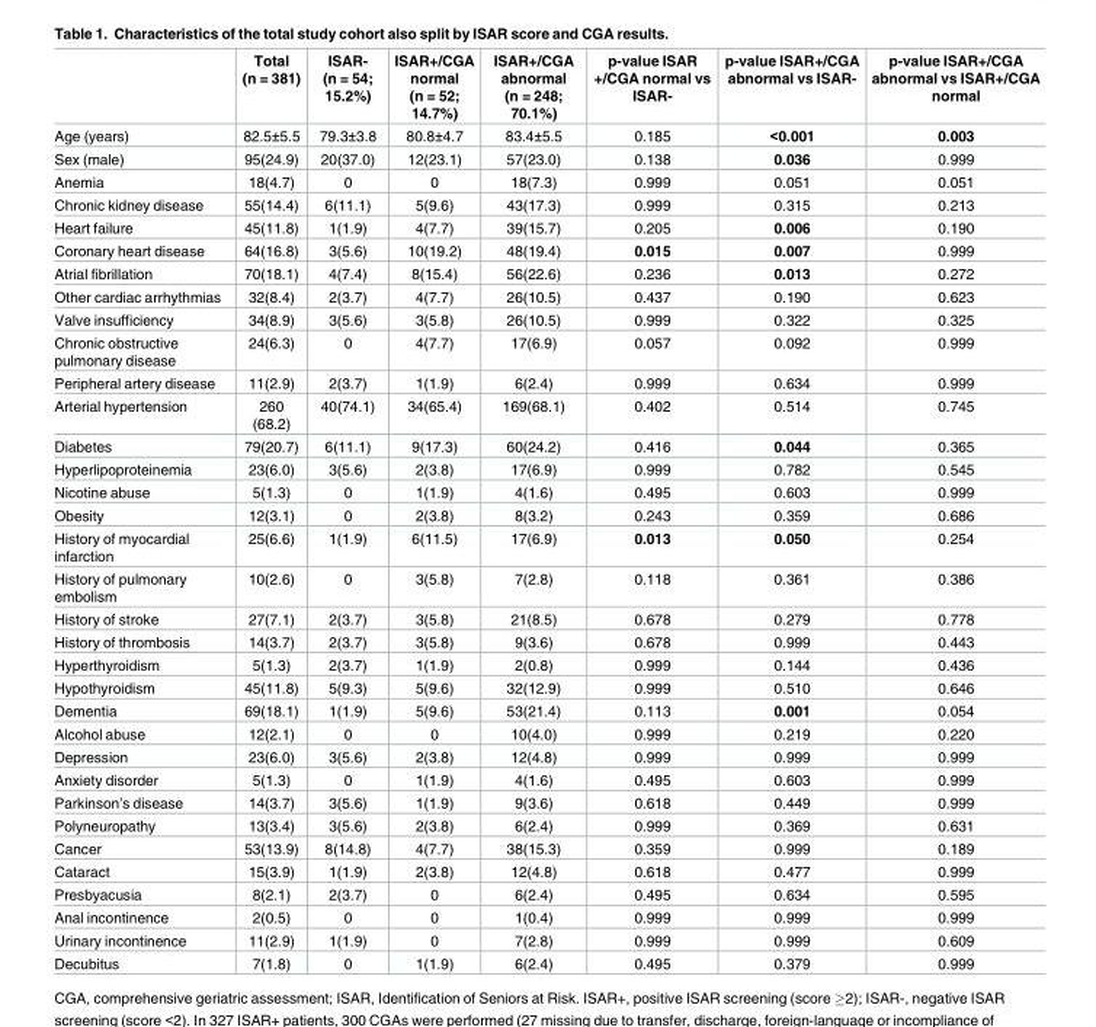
<table><thead><tr><td></td><td>Total (n = 381)</td><td>ISAR- (n = 54; 15.2%)</td><td>ISAR+/CGA normal (n = 52; 14.7%)</td><td>ISAR+/CGA abnormal (n = 248; 70.1%)</td><td>p-value ISAR +/CGA normal vs ISAR-</td><td>p-value ISAR+/CGA abnormal vs ISAR-</td><td>p-value ISAR+/CGA abnormal vs ISAR+/CGA normal</td></tr></thead><tbody><tr><td>Age (years)</td><td>82.5±5.5</td><td>79.3±3.8</td><td>80.8±4.7</td><td>83.4±5.5</td><td>0.185</td><td>&lt;0.001</td><td>0.003</td></tr><tr><td>Sex (male)</td><td>95(24.9)</td><td>20(37.0)</td><td>12(23.1)</td><td>57(23.0)</td><td>0.138</td><td>0.036</td><td>0.999</td></tr><tr><td>Anemia</td><td>18(4.7)</td><td>0</td><td>0</td><td>18(7.3)</td><td>0.999</td><td>0.051</td><td>0.051</td></tr><tr><td>Chronic kidney disease</td><td>55(14.4)</td><td>6(11.1)</td><td>5(9.6)</td><td>43(17.3)</td><td>0.999</td><td>0.315</td><td>0.213</td></tr><tr><td>Heart failure</td><td>45(11.8)</td><td>1(1.9)</td><td>4(7.7)</td><td>39(15.7)</td><td>0.205</td><td>0.006</td><td>0.190</td></tr><tr><td>Coronary heart disease</td><td>64(16.8)</td><td>3(5.6)</td><td>10(19.2)</td><td>48(19.4)</td><td>0.015</td><td>0.007</td><td>0.999</td></tr><tr><td>Atrial fibrillation</td><td>70(18.1)</td><td>4(7.4)</td><td>8(15.4)</td><td>56(22.6)</td><td>0.236</td><td>0.013</td><td>0.272</td></tr><tr><td>Other cardiac arrhythmias</td><td>32(8.4)</td><td>2(3.7)</td><td>4(7.7)</td><td>26(10.5)</td><td>0.437</td><td>0.190</td><td>0.623</td></tr><tr><td>Valve insufficiency</td><td>34(8.9)</td><td>3(5.6)</td><td>3(5.8)</td><td>26(10.5)</td><td>0.999</td><td>0.322</td><td>0.325</td></tr><tr><td>Chronic obstructive pulmonary disease</td><td>24(6.3)</td><td>0</td><td>4(7.7)</td><td>17(6.9)</td><td>0.057</td><td>0.092</td><td>0.999</td></tr><tr><td>Peripheral artery disease</td><td>11(2.9)</td><td>2(3.7)</td><td>1(1.9)</td><td>6(2.4)</td><td>0.999</td><td>0.634</td><td>0.999</td></tr><tr><td>Arterial hypertension</td><td>260 (68.2)</td><td>40(74.1)</td><td>34(65.4)</td><td>169(68.1)</td><td>0.402</td><td>0.514</td><td>0.745</td></tr><tr><td>Diabetes</td><td>79(20.7)</td><td>6(11.1)</td><td>9(17.3)</td><td>60(24.2)</td><td>0.416</td><td>0.044</td><td>0.365</td></tr><tr><td>Hyperlipoproteinemia</td><td>23(6.0)</td><td>3(5.6)</td><td>2(3.8)</td><td>17(6.9)</td><td>0.999</td><td>0.782</td><td>0.545</td></tr><tr><td>Nicotine abuse</td><td>5(1.3)</td><td>0</td><td>1(1.9)</td><td>4(1.6)</td><td>0.495</td><td>0.603</td><td>0.999</td></tr><tr><td>Obesity</td><td>12(3.1)</td><td>0</td><td>2(3.8)</td><td>8(3.2)</td><td>0.243</td><td>0.359</td><td>0.686</td></tr><tr><td>History of myocardial infarction</td><td>25(6.6)</td><td>1(1.9)</td><td>6(11.5)</td><td>17(6.9)</td><td>0.013</td><td>0.050</td><td>0.254</td></tr><tr><td>History of pulmonary embolism</td><td>10(2.6)</td><td>0</td><td>3(5.8)</td><td>7(2.8)</td><td>0.118</td><td>0.361</td><td>0.386</td></tr><tr><td>History of stroke</td><td>27(7.1)</td><td>2(3.7)</td><td>3(5.8)</td><td>21(8.5)</td><td>0.678</td><td>0.279</td><td>0.778</td></tr><tr><td>History of thrombosis</td><td>14(3.7)</td><td>2(3.7)</td><td>3(5.8)</td><td>9(3.6)</td><td>0.678</td><td>0.999</td><td>0.443</td></tr><tr><td>Hyperthyroidism</td><td>5(1.3)</td><td>2(3.7)</td><td>1(1.9)</td><td>2(0.8)</td><td>0.999</td><td>0.144</td><td>0.436</td></tr><tr><td>Hypothyroidism</td><td>45(11.8)</td><td>5(9.3)</td><td>5(9.6)</td><td>32(12.9)</td><td>0.999</td><td>0.510</td><td>0.646</td></tr><tr><td>Dementia</td><td>69(18.1)</td><td>1(1.9)</td><td>5(9.6)</td><td>53(21.4)</td><td>0.113</td><td>0.001</td><td>0.054</td></tr><tr><td>Alcohol abuse</td><td>12(2.1)</td><td>0</td><td>0</td><td>10(4.0)</td><td>0.999</td><td>0.219</td><td>0.220</td></tr><tr><td>Depression</td><td>23(6.0)</td><td>3(5.6)</td><td>2(3.8)</td><td>12(4.8)</td><td>0.999</td><td>0.999</td><td>0.999</td></tr><tr><td>Anxiety disorder</td><td>5(1.3)</td><td>0</td><td>1(1.9)</td><td>4(1.6)</td><td>0.495</td><td>0.603</td><td>0.999</td></tr><tr><td>Parkinson’s disease</td><td>14(3.7)</td><td>3(5.6)</td><td>1(1.9)</td><td>9(3.6)</td><td>0.618</td><td>0.449</td><td>0.999</td></tr><tr><td>Polyneuropathy</td><td>13(3.4)</td><td>3(5.6)</td><td>2(3.8)</td><td>6(2.4)</td><td>0.999</td><td>0.369</td><td>0.631</td></tr><tr><td>Cancer</td><td>53(13.9)</td><td>8(14.8)</td><td>4(7.7)</td><td>38(15.3)</td><td>0.359</td><td>0.999</td><td>0.189</td></tr><tr><td>Cataract</td><td>15(3.9)</td><td>1(1.9)</td><td>2(3.8)</td><td>12(4.8)</td><td>0.618</td><td>0.477</td><td>0.999</td></tr><tr><td>Presbyacusia</td><td>8(2.1)</td><td>2(3.7)</td><td>0</td><td>6(2.4)</td><td>0.495</td><td>0.634</td><td>0.595</td></tr><tr><td>Anal incontinence</td><td>2(0.5)</td><td>0</td><td>0</td><td>1(0.4)</td><td>0.999</td><td>0.999</td><td>0.999</td></tr><tr><td>Urinary incontinence</td><td>11(2.9)</td><td>1(1.9)</td><td>0</td><td>7(2.8)</td><td>0.999</td><td>0.999</td><td>0.609</td></tr><tr><td>Decubitus</td><td>7(1.8)</td><td>0</td><td>1(1.9)</td><td>6(2.4)</td><td>0.495</td><td>0.379</td><td>0.999</td></tr></tbody></table>